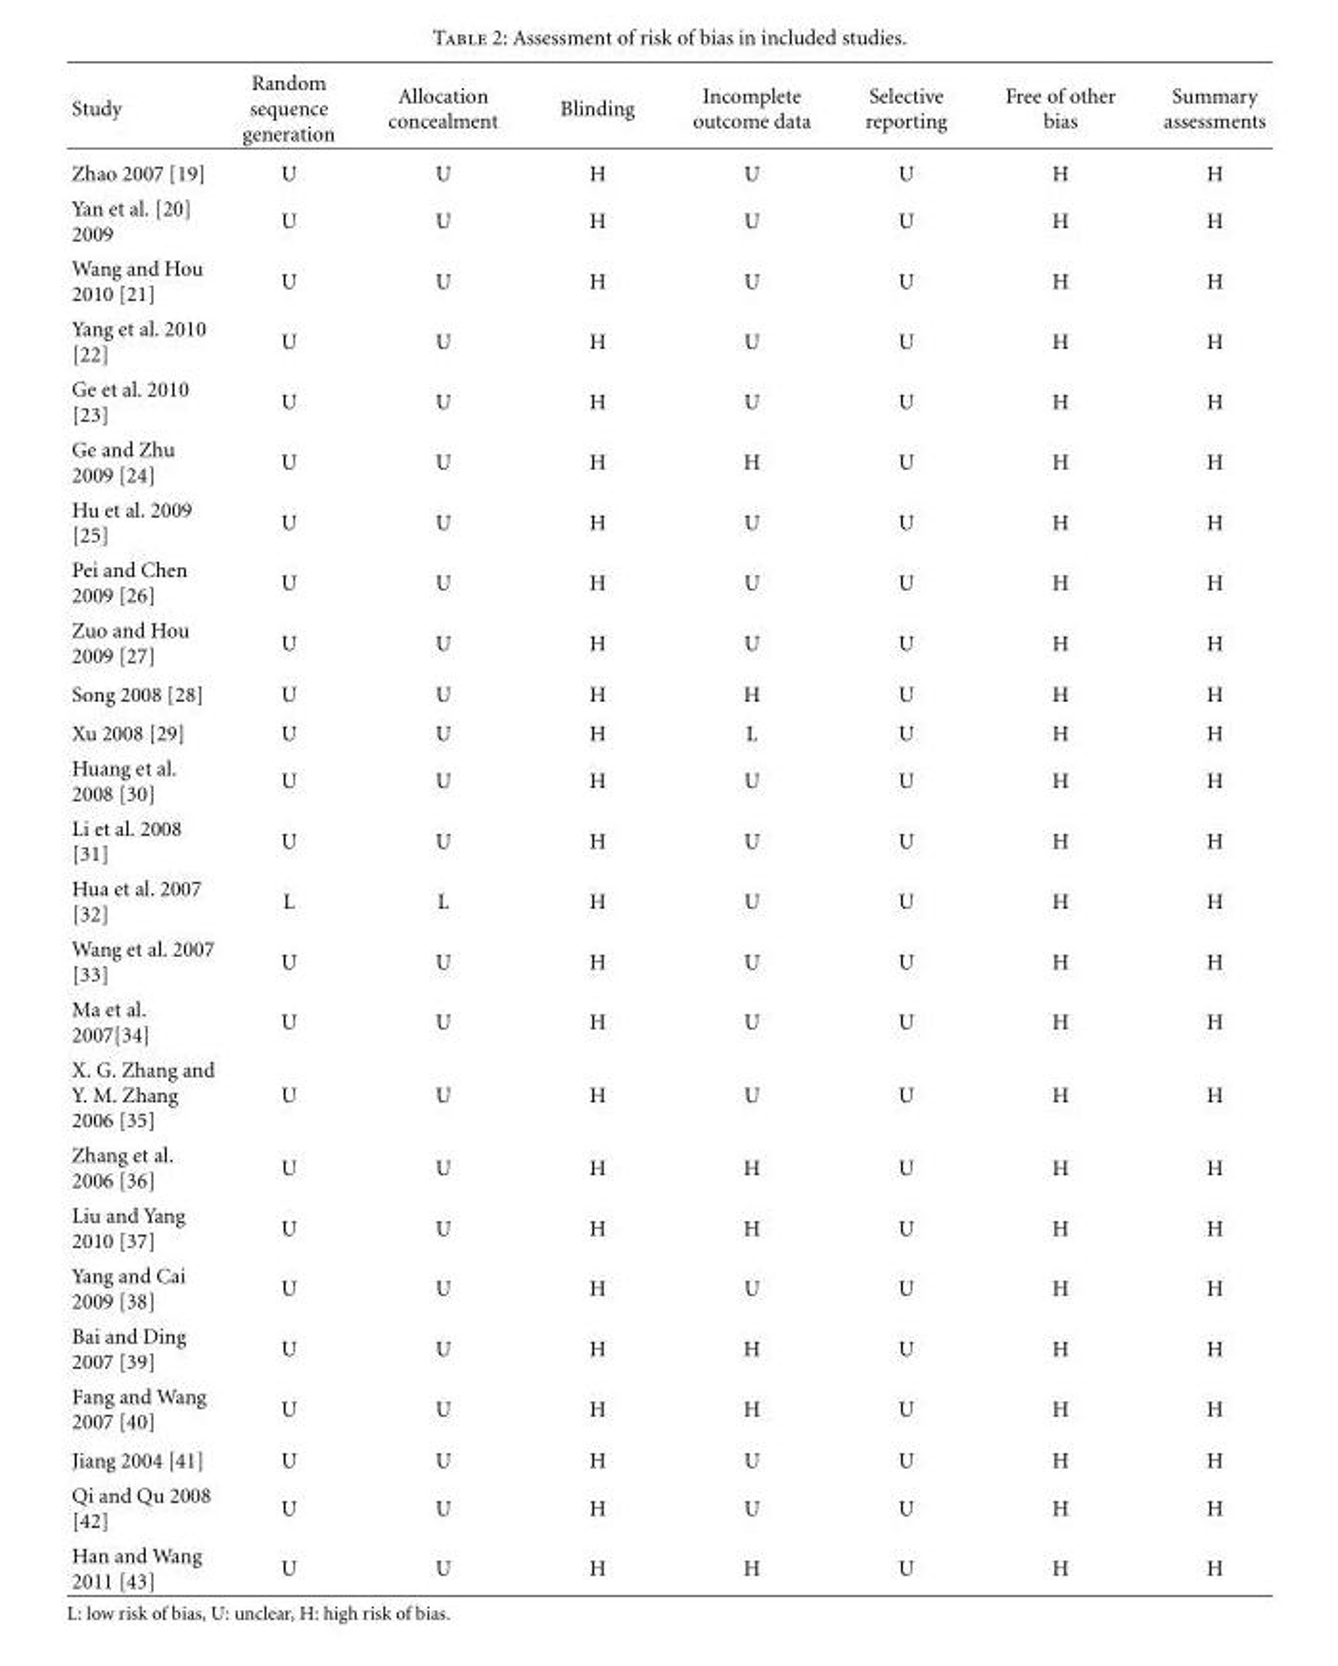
<table><thead><tr><td>Study</td><td>Random sequence generation</td><td>Allocation concealment</td><td>Blinding</td><td>Incomplete outcome data</td><td>Selective reporting</td><td>Free of other bias</td><td>Summary assessments</td></tr></thead><tbody><tr><td>Zhao 2007 [19]</td><td>U</td><td>U</td><td>H</td><td>U</td><td>U</td><td>H</td><td>H</td></tr><tr><td>Yan et al. [20] 2009</td><td>U</td><td>U</td><td>H</td><td>U</td><td>U</td><td>H</td><td>H</td></tr><tr><td>Wang and Hou 2010 [21]</td><td>U</td><td>U</td><td>H</td><td>U</td><td>U</td><td>H</td><td>H</td></tr><tr><td>Yang et al. 2010 [22]</td><td>U</td><td>U</td><td>H</td><td>U</td><td>U</td><td>H</td><td>H</td></tr><tr><td>Ge et al. 2010 [23]</td><td>U</td><td>U</td><td>H</td><td>U</td><td>U</td><td>H</td><td>H</td></tr><tr><td>Ge and Zhu 2009 [24]</td><td>U</td><td>U</td><td>H</td><td>H</td><td>U</td><td>H</td><td>H</td></tr><tr><td>Hu et al. 2009 [25]</td><td>U</td><td>U</td><td>H</td><td>U</td><td>U</td><td>H</td><td>H</td></tr><tr><td>Pei and Chen 2009 [26]</td><td>U</td><td>U</td><td>H</td><td>U</td><td>U</td><td>H</td><td>H</td></tr><tr><td>Zuo and Hou 2009 [27]</td><td>U</td><td>U</td><td>H</td><td>U</td><td>U</td><td>H</td><td>H</td></tr><tr><td>Song 2008 [28]</td><td>U</td><td>U</td><td>H</td><td>H</td><td>U</td><td>H</td><td>H</td></tr><tr><td>Xu 2008 [29]</td><td>U</td><td>U</td><td>H</td><td>L</td><td>U</td><td>H</td><td>H</td></tr><tr><td>Huang et al. 2008 [30]</td><td>U</td><td>U</td><td>H</td><td>U</td><td>U</td><td>H</td><td>H</td></tr><tr><td>Li et al. 2008 [31]</td><td>U</td><td>U</td><td>H</td><td>U</td><td>U</td><td>H</td><td>H</td></tr><tr><td>Hua et al. 2007 [32]</td><td>L</td><td>L</td><td>H</td><td>U</td><td>U</td><td>H</td><td>H</td></tr><tr><td>Wang et al. 2007 [33]</td><td>U</td><td>U</td><td>H</td><td>U</td><td>U</td><td>H</td><td>H</td></tr><tr><td>Ma et al. 2007[34]</td><td>U</td><td>U</td><td>H</td><td>U</td><td>U</td><td>H</td><td>H</td></tr><tr><td>X. G. Zhang and Y. M. Zhang 2006 [35]</td><td>U</td><td>U</td><td>H</td><td>U</td><td>U</td><td>H</td><td>H</td></tr><tr><td>Zhang et al. 2006 [36]</td><td>U</td><td>U</td><td>H</td><td>H</td><td>U</td><td>H</td><td>H</td></tr><tr><td>Liu and Yang 2010 [37]</td><td>U</td><td>U</td><td>H</td><td>H</td><td>U</td><td>H</td><td>H</td></tr><tr><td>Yang and Cai 2009 [38]</td><td>U</td><td>U</td><td>H</td><td>U</td><td>U</td><td>H</td><td>H</td></tr><tr><td>Bai and Ding 2007 [39]</td><td>U</td><td>U</td><td>H</td><td>H</td><td>U</td><td>H</td><td>H</td></tr><tr><td>Fang and Wang 2007 [40]</td><td>U</td><td>U</td><td>H</td><td>H</td><td>U</td><td>H</td><td>H</td></tr><tr><td>Jiang 2004 [41]</td><td>U</td><td>U</td><td>H</td><td>U</td><td>U</td><td>H</td><td>H</td></tr><tr><td>Qi and Qu 2008 [42]</td><td>U</td><td>U</td><td>H</td><td>U</td><td>U</td><td>H</td><td>H</td></tr><tr><td>Han and Wang 2011 [43]</td><td>U</td><td>U</td><td>H</td><td>H</td><td>U</td><td>H</td><td>H</td></tr></tbody></table>